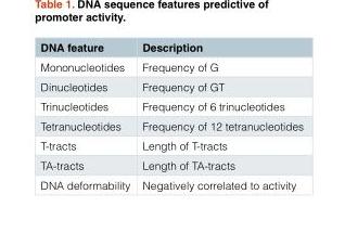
<table><thead><tr><td>DNA feature</td><td>Description</td></tr></thead><tbody><tr><td>Mononucleotides</td><td>Frequency of G</td></tr><tr><td>Dinucleotides</td><td>Frequency of GT</td></tr><tr><td>Trinucleotides</td><td>Frequency of 6 trinucleotides</td></tr><tr><td>Tetranucleotides</td><td>Frequency of 12 tetranucleotides</td></tr><tr><td>T-tracts</td><td>Length of T-tracts</td></tr><tr><td>TA-tracts</td><td>Length of TA-tracts</td></tr><tr><td>DNA deformability</td><td>Negatively correlated to activity</td></tr></tbody></table>